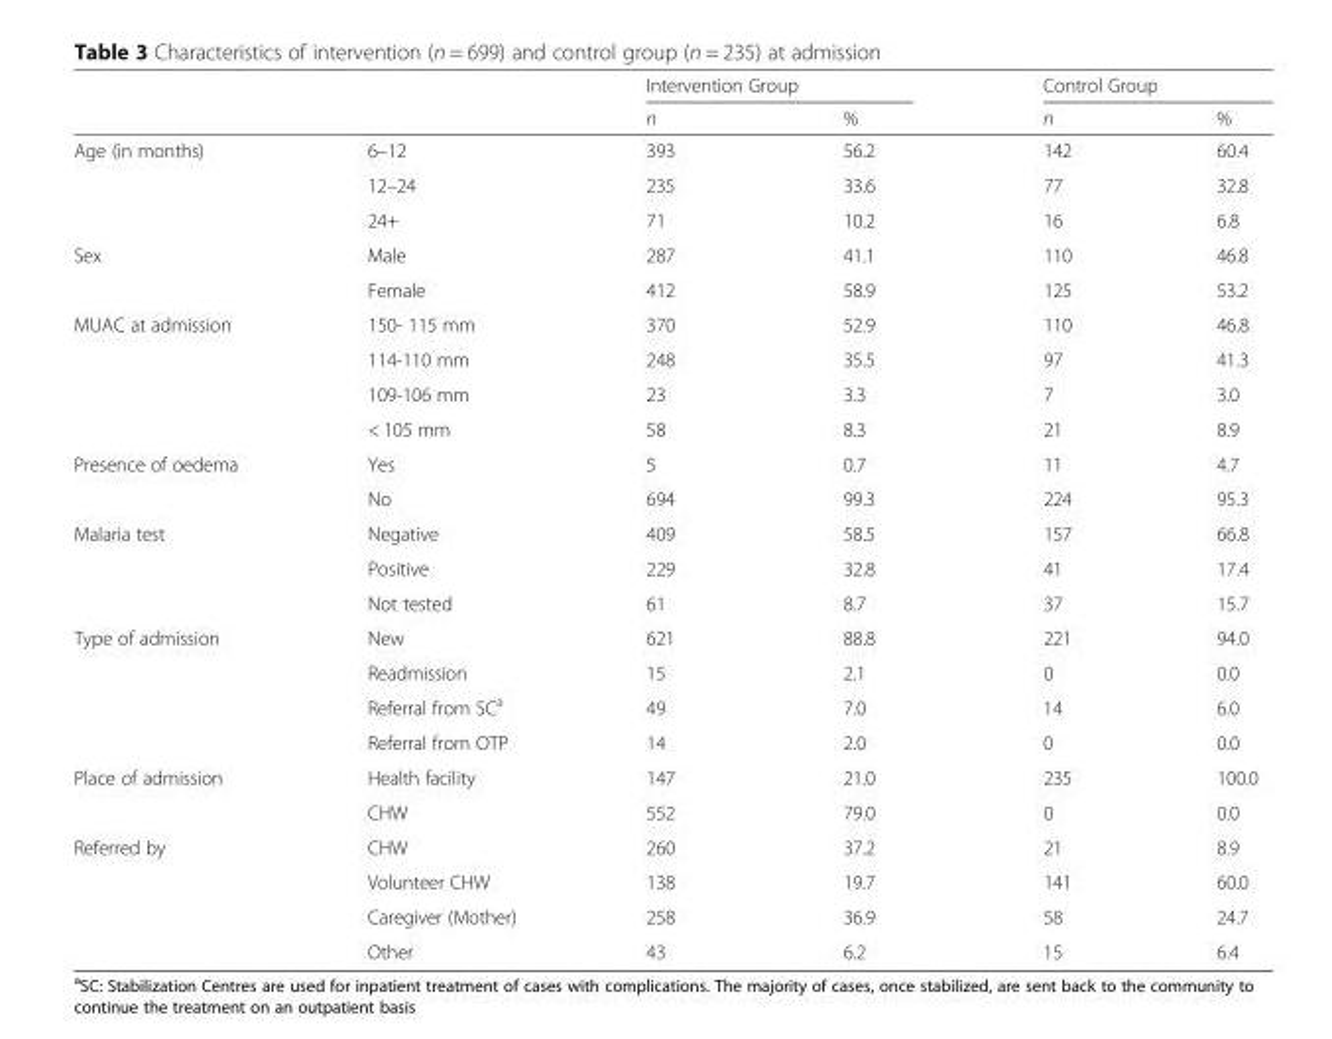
<table><thead><tr><td rowspan="2"></td><td rowspan="2"></td><td colspan="2">Intervention Group</td><td colspan="2">Control Group</td></tr><tr><td>n</td><td>%</td><td>n</td><td>%</td></tr></thead><tbody><tr><td rowspan="3">Age (in months)</td><td>6–12</td><td>393</td><td>56.2</td><td>142</td><td>60.4</td></tr><tr><td>12–24</td><td>235</td><td>33.6</td><td>77</td><td>32.8</td></tr><tr><td>24+</td><td>71</td><td>10.2</td><td>16</td><td>6.8</td></tr><tr><td rowspan="2">Sex</td><td>Male</td><td>287</td><td>41.1</td><td>110</td><td>46.8</td></tr><tr><td>Female</td><td>412</td><td>58.9</td><td>125</td><td>53.2</td></tr><tr><td rowspan="4">MUAC at admission</td><td>150- 115 mm</td><td>370</td><td>52.9</td><td>110</td><td>46.8</td></tr><tr><td>114-110 mm</td><td>248</td><td>35.5</td><td>97</td><td>41.3</td></tr><tr><td>109-106 mm</td><td>23</td><td>3.3</td><td>7</td><td>3.0</td></tr><tr><td>&lt; 105 mm</td><td>58</td><td>8.3</td><td>21</td><td>8.9</td></tr><tr><td rowspan="2">Presence of oedema</td><td>Yes</td><td>5</td><td>0.7</td><td>11</td><td>4.7</td></tr><tr><td>No</td><td>694</td><td>99.3</td><td>224</td><td>95.3</td></tr><tr><td rowspan="3">Malaria test</td><td>Negative</td><td>409</td><td>58.5</td><td>157</td><td>66.8</td></tr><tr><td>Positive</td><td>229</td><td>32.8</td><td>41</td><td>17.4</td></tr><tr><td>Not tested</td><td>61</td><td>8.7</td><td>37</td><td>15.7</td></tr><tr><td rowspan="4">Type of admission</td><td>New</td><td>621</td><td>88.8</td><td>221</td><td>94.0</td></tr><tr><td>Readmission</td><td>15</td><td>2.1</td><td>0</td><td>0.0</td></tr><tr><td>Referral from SC<sup>a</sup></td><td>49</td><td>7.0</td><td>14</td><td>6.0</td></tr><tr><td>Referral from OTP</td><td>14</td><td>2.0</td><td>0</td><td>0.0</td></tr><tr><td rowspan="2">Place of admission</td><td>Health facility</td><td>147</td><td>21.0</td><td>235</td><td>100.0</td></tr><tr><td>CHW</td><td>552</td><td>79.0</td><td>0</td><td>0.0</td></tr><tr><td rowspan="4">Referred by</td><td>CHW</td><td>260</td><td>37.2</td><td>21</td><td>8.9</td></tr><tr><td>Volunteer CHW</td><td>138</td><td>19.7</td><td>141</td><td>60.0</td></tr><tr><td>Caregiver (Mother)</td><td>258</td><td>36.9</td><td>58</td><td>24.7</td></tr><tr><td>Other</td><td>43</td><td>6.2</td><td>15</td><td>6.4</td></tr></tbody></table>